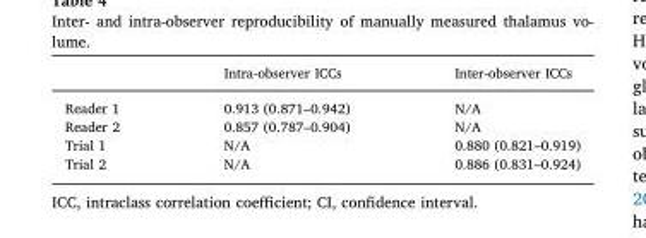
<table><thead><tr><td></td><td>Intra-observer ICCs</td><td>Inter-observer ICCs</td></tr></thead><tbody><tr><td>Reader 1</td><td>0.913 (0.871–0.942)</td><td>N/A</td></tr><tr><td>Reader 2</td><td>0.857 (0.787–0.904)</td><td>N/A</td></tr><tr><td>Trial 1</td><td>N/A</td><td>0.880 (0.821–0.919)</td></tr><tr><td>Trial 2</td><td>N/A</td><td>0.886 (0.831–0.924)</td></tr></tbody></table>